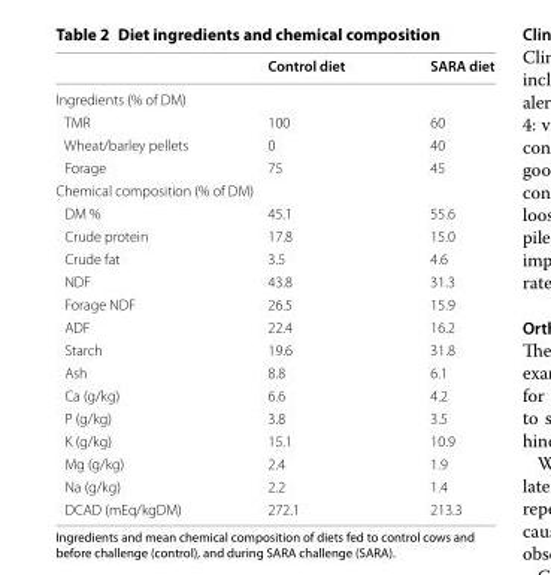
<table><thead><tr><td></td><td>Control diet</td><td>SARA diet</td></tr></thead><tbody><tr><td colspan="3">Ingredients (% of DM)</td></tr><tr><td>TMR</td><td>100</td><td>60</td></tr><tr><td>Wheat/barley pellets</td><td>0</td><td>40</td></tr><tr><td>Forage</td><td>75</td><td>45</td></tr><tr><td colspan="3">Chemical composition (% of DM)</td></tr><tr><td>DM %</td><td>45.1</td><td>55.6</td></tr><tr><td>Crude protein</td><td>17.8</td><td>15.0</td></tr><tr><td>Crude fat</td><td>3.5</td><td>4.6</td></tr><tr><td>NDF</td><td>43.8</td><td>31.3</td></tr><tr><td>Forage NDF</td><td>26.5</td><td>15.9</td></tr><tr><td>ADF</td><td>22.4</td><td>16.2</td></tr><tr><td>Starch</td><td>19.6</td><td>31.8</td></tr><tr><td>Ash</td><td>8.8</td><td>6.1</td></tr><tr><td>Ca (g/kg)</td><td>6.6</td><td>4.2</td></tr><tr><td>P (g/kg)</td><td>3.8</td><td>3.5</td></tr><tr><td>K (g/kg)</td><td>15.1</td><td>10.9</td></tr><tr><td>Mg (g/kg)</td><td>2.4</td><td>1.9</td></tr><tr><td>Na (g/kg)</td><td>2.2</td><td>1.4</td></tr><tr><td>DCAD (mEq/kgDM)</td><td>272.1</td><td>213.3</td></tr></tbody></table>